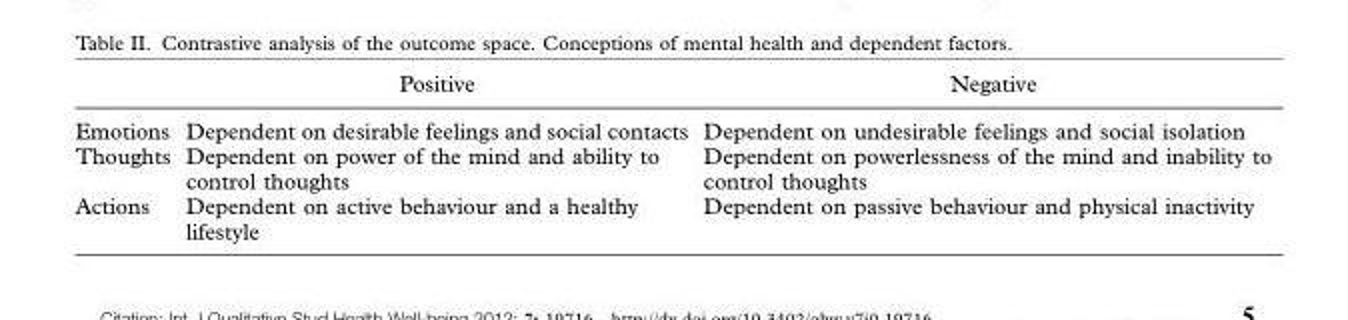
<table><thead><tr><td></td><td>Positive</td><td>Negative</td></tr></thead><tbody><tr><td>Emotions</td><td>Dependent on desirable feelings and social contacts</td><td>Dependent on undesirable feelings and social isolation</td></tr><tr><td>Thoughts</td><td>Dependent on power of the mind and ability to control thoughts</td><td>Dependent on powerlessness of the mind and inability to control thoughts</td></tr><tr><td>Actions</td><td>Dependent on active behaviour and a healthy lifestyle</td><td>Dependent on passive behaviour and physical inactivity</td></tr></tbody></table>